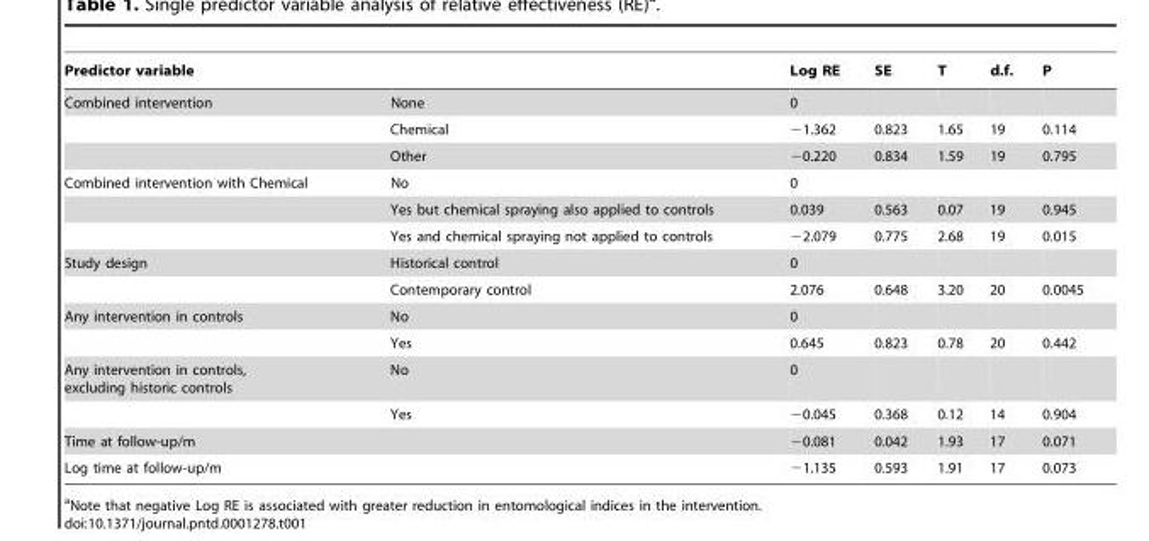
<table><thead><tr><td>Predictor variable</td><td></td><td>Log RE</td><td>SE</td><td>T</td><td>d.f.</td><td>P</td></tr></thead><tbody><tr><td rowspan="3">Combined intervention</td><td>None</td><td>0</td><td></td><td></td><td></td><td></td></tr><tr><td>Chemical</td><td>−1.362</td><td>0.823</td><td>1.65</td><td>19</td><td>0.114</td></tr><tr><td>Other</td><td>−0.220</td><td>0.834</td><td>1.59</td><td>19</td><td>0.795</td></tr><tr><td rowspan="3">Combined intervention with Chemical</td><td>No</td><td>0</td><td></td><td></td><td></td><td></td></tr><tr><td>Yes but chemical spraying also applied to controls</td><td>0.039</td><td>0.563</td><td>0.07</td><td>19</td><td>0.945</td></tr><tr><td>Yes and chemical spraying not applied to controls</td><td>−2.079</td><td>0.775</td><td>2.68</td><td>19</td><td>0.015</td></tr><tr><td rowspan="2">Study design</td><td>Historical control</td><td>0</td><td></td><td></td><td></td><td></td></tr><tr><td>Contemporary control</td><td>2.076</td><td>0.648</td><td>3.20</td><td>20</td><td>0.0045</td></tr><tr><td rowspan="2">Any intervention in controls</td><td>No</td><td>0</td><td></td><td></td><td></td><td></td></tr><tr><td>Yes</td><td>0.645</td><td>0.823</td><td>0.78</td><td>20</td><td>0.442</td></tr><tr><td rowspan="2">Any intervention in controls, excluding historic controls</td><td>No</td><td>0</td><td></td><td></td><td></td><td></td></tr><tr><td>Yes</td><td>−0.045</td><td>0.368</td><td>0.12</td><td>14</td><td>0.904</td></tr><tr><td>Time at follow-up/m</td><td></td><td>−0.081</td><td>0.042</td><td>1.93</td><td>17</td><td>0.071</td></tr><tr><td>Log time at follow-up/m</td><td></td><td>−1.135</td><td>0.593</td><td>1.91</td><td>17</td><td>0.073</td></tr></tbody></table>